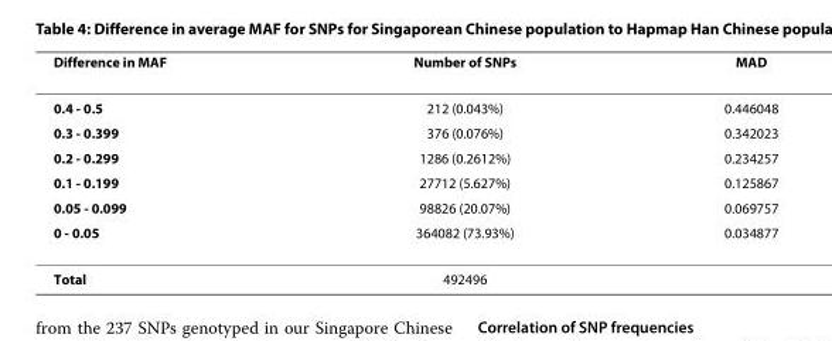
<table><thead><tr><td>Difference in MAF</td><td>Number of SNPs</td><td>MAD</td></tr></thead><tbody><tr><td>0.4 - 0.5</td><td>212 (0.043%)</td><td>0.446048</td></tr><tr><td>0.3 - 0.399</td><td>376 (0.076%)</td><td>0.342023</td></tr><tr><td>0.2 - 0.299</td><td>1286 (0.2612%)</td><td>0.234257</td></tr><tr><td>0.1 - 0.199</td><td>27712 (5.627%)</td><td>0.125867</td></tr><tr><td>0.05 - 0.099</td><td>98826 (20.07%)</td><td>0.069757</td></tr><tr><td>0 - 0.05</td><td>364082 (73.93%)</td><td>0.034877</td></tr><tr><td>Total</td><td>492496</td><td></td></tr></tbody></table>